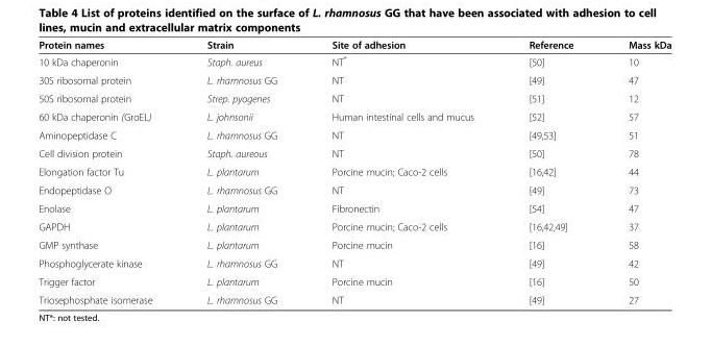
<table><thead><tr><td>Protein names</td><td>Strain</td><td>Site of adhesion</td><td>Reference</td><td>Mass kDa</td></tr></thead><tbody><tr><td>10 kDa chaperonin</td><td>Staph. aureus</td><td>NT*</td><td>[50]</td><td>10</td></tr><tr><td>30S ribosomal protein</td><td>L. rhamnosus GG</td><td>NT</td><td>[49]</td><td>47</td></tr><tr><td>50S ribosomal protein</td><td>Strep. pyogenes</td><td>NT</td><td>[51]</td><td>12</td></tr><tr><td>60 kDa chaperonin (GroEL)</td><td>L. johnsonii</td><td>Human intestinal cells and mucus</td><td>[52]</td><td>57</td></tr><tr><td>Aminopeptidase C</td><td>L. rhamnosus GG</td><td>NT</td><td>[49,53]</td><td>51</td></tr><tr><td>Cell division protein</td><td>Staph. aureous</td><td>NT</td><td>[50]</td><td>78</td></tr><tr><td>Elongation factor Tu</td><td>L. plantarum</td><td>Porcine mucin; Caco-2 cells</td><td>[16,42]</td><td>44</td></tr><tr><td>Endopeptidase O</td><td>L. rhamnosus GG</td><td>NT</td><td>[49]</td><td>73</td></tr><tr><td>Enolase</td><td>L. plantarum</td><td>Fibronectin</td><td>[54]</td><td>47</td></tr><tr><td>GAPDH</td><td>L. plantarum</td><td>Porcine mucin; Caco-2 cells</td><td>[16,42,49]</td><td>37</td></tr><tr><td>GMP synthase</td><td>L. plantarum</td><td>Porcine mucin</td><td>[16]</td><td>58</td></tr><tr><td>Phosphoglycerate kinase</td><td>L. rhamnosus GG</td><td>NT</td><td>[49]</td><td>42</td></tr><tr><td>Trigger factor</td><td>L. plantarum</td><td>Porcine mucin</td><td>[16]</td><td>50</td></tr><tr><td>Triosephosphate isomerase</td><td>L. rhamnosus GG</td><td>NT</td><td>[49]</td><td>27</td></tr></tbody></table>